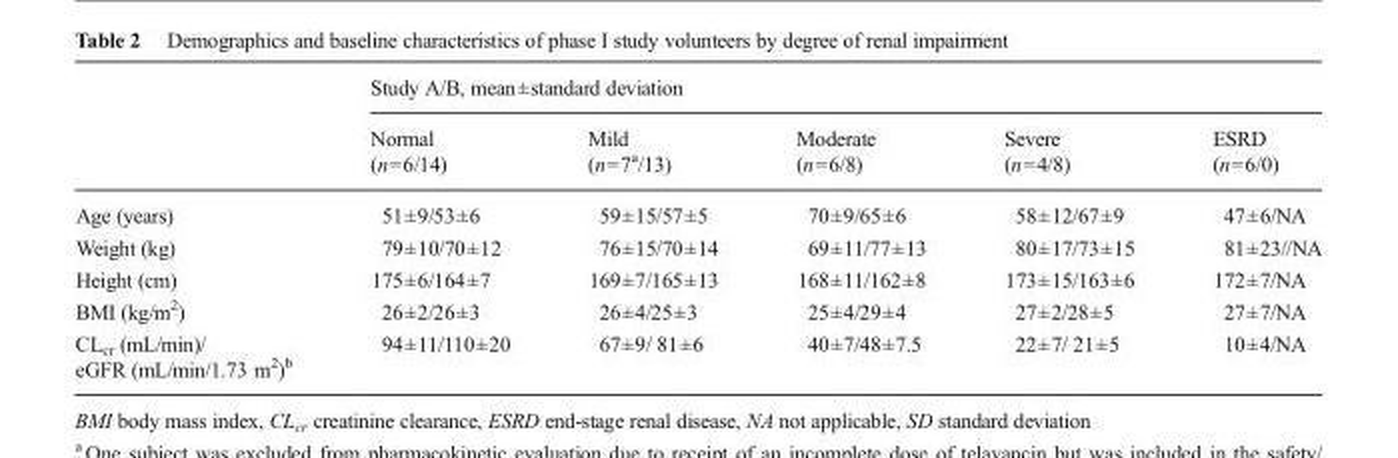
<table><thead><tr><td rowspan="2"></td><td colspan="5">Study A/B, mean±standard deviation</td></tr><tr><td>Normal (n=6/14)</td><td>Mild (n=7<sup>a</sup>/13)</td><td>Moderate (n=6/8)</td><td>Severe (n=4/8)</td><td>ESRD (n=6/0)</td></tr></thead><tbody><tr><td>Age (years)</td><td>51±9/53±6</td><td>59±15/57±5</td><td>70±9/65±6</td><td>58±12/67±9</td><td>47±6/NA</td></tr><tr><td>Weight (kg)</td><td>79±10/70±12</td><td>76±15/70±14</td><td>69±11/77±13</td><td>80±17/73±15</td><td>81±23//NA</td></tr><tr><td>Height (cm)</td><td>175±6/164±7</td><td>169±7/165±13</td><td>168±11/162±8</td><td>173±15/163±6</td><td>172±7/NA</td></tr><tr><td>BMI (kg/m<sup>2</sup>)</td><td>26±2/26±3</td><td>26±4/25±3</td><td>25±4/29±4</td><td>27±2/28±5</td><td>27±7/NA</td></tr><tr><td>CL<sub>cr</sub> (mL/min)/ eGFR (mL/min/1.73 m<sup>2</sup>)<sup>b</sup></td><td>94±11/110±20</td><td>67±9/ 81±6</td><td>40±7/48±7.5</td><td>22±7/ 21±5</td><td>10±4/NA</td></tr></tbody></table>